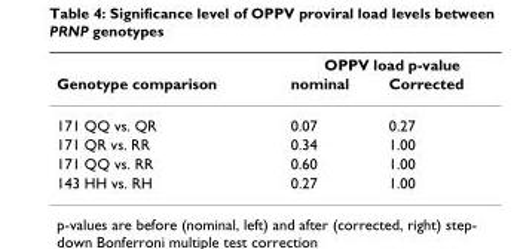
<table><thead><tr><td rowspan="2">Genotype comparison</td><td colspan="2">OPPV load p-value</td></tr><tr><td>nominal</td><td>Corrected</td></tr></thead><tbody><tr><td>171 QQ vs. QR</td><td>0.07</td><td>0.27</td></tr><tr><td>171 QR vs. RR</td><td>0.34</td><td>1.00</td></tr><tr><td>171 QQ vs. RR</td><td>0.60</td><td>1.00</td></tr><tr><td>143 HH vs. RH</td><td>0.27</td><td>1.00</td></tr></tbody></table>